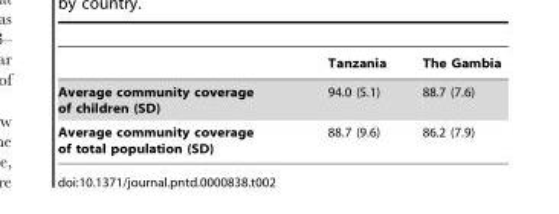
<table><thead><tr><td></td><td>Tanzania</td><td>The Gambia</td></tr></thead><tbody><tr><td>Average community coverage of children (SD)</td><td>94.0 (5.1)</td><td>88.7 (7.6)</td></tr><tr><td>Average community coverage of total population (SD)</td><td>88.7 (9.6)</td><td>86.2 (7.9)</td></tr></tbody></table>